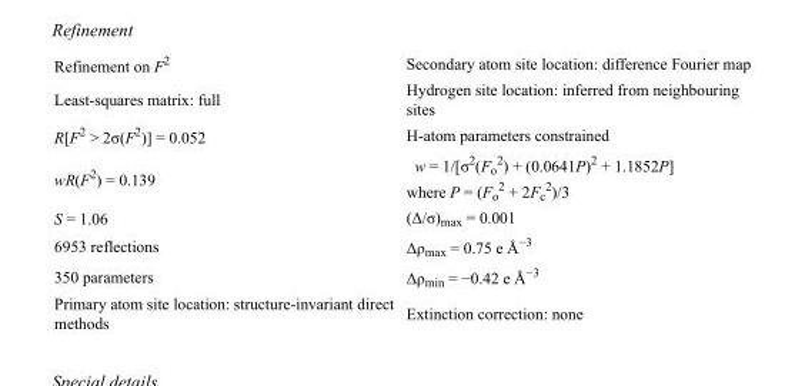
<table><tbody><tr><td>Refinement on F<sup>2</sup></td><td>Secondary atom site location: difference Fourier map</td></tr><tr><td>Least-squares matrix: full</td><td>Hydrogen site location: inferred from neighbouring sites</td></tr><tr><td>R[F<sup>2</sup> &gt; 2σ(F<sup>2</sup>)] = 0.052</td><td>H-atom parameters constrained</td></tr><tr><td>wR(F<sup>2</sup>) = 0.139</td><td>w = 1/[σ<sup>2</sup>(F<sub>o</sub> <sup>2</sup>) + (0.0641P)<sup>2</sup> + 1.1852P] where P = (F<sub>o</sub> <sup>2</sup> + 2F<sub>c</sub> <sup>2</sup>)/3</td></tr><tr><td>S = 1.06</td><td>(Δ/σ)<sub>max</sub> = 0.001</td></tr><tr><td>6953 reflections</td><td>Δρ<sub>max</sub> = 0.75 e Å<sup>−3</sup></td></tr><tr><td>350 parameters</td><td>Δρ<sub>min</sub> = −0.42 e Å<sup>−3</sup></td></tr><tr><td>Primary atom site location: structure-invariant direct methods</td><td>Extinction correction: none</td></tr></tbody></table>